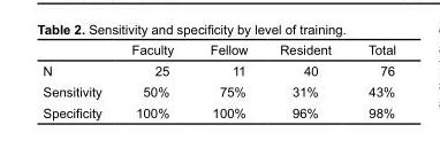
<table><thead><tr><td></td><td>Faculty</td><td>Fellow</td><td>Resident</td><td>Total</td></tr></thead><tbody><tr><td>N</td><td>25</td><td>11</td><td>40</td><td>76</td></tr><tr><td>Sensitivity</td><td>50%</td><td>75%</td><td>31%</td><td>43%</td></tr><tr><td>Specificity</td><td>100%</td><td>100%</td><td>96%</td><td>98%</td></tr></tbody></table>